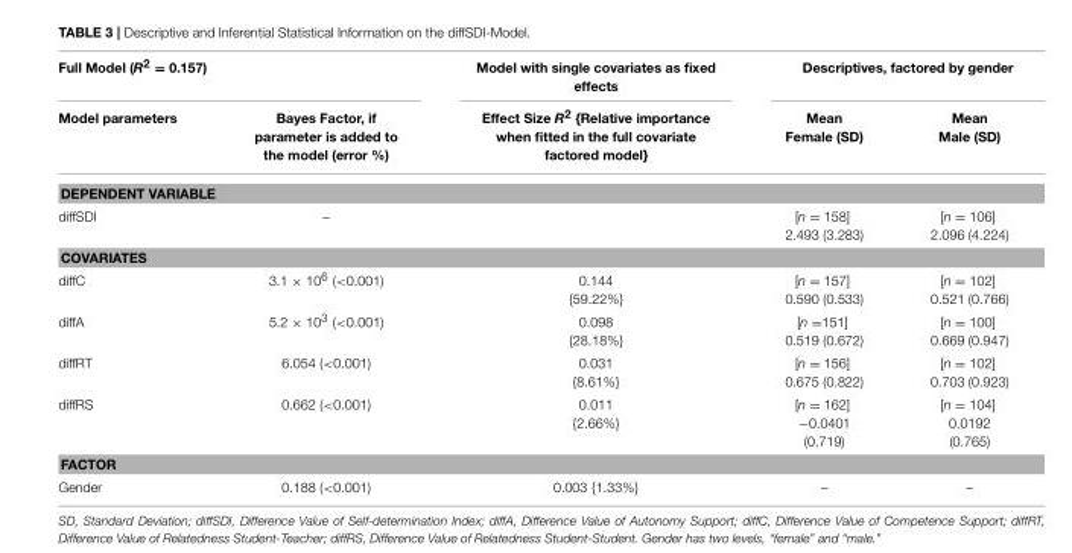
<table><thead><tr><td colspan="2">Full Model (R<sup>2</sup> = 0.157)</td><td rowspan="2">Model with single covariates as fixed effects Effect Size R<sup>2</sup> {Relative importance when fitted in the full covariate factored model}</td><td colspan="2">Descriptives, factored by gender</td></tr><tr><td>Model parameters</td><td>Bayes Factor, if parameter is added to the model (error %)</td><td>Mean Female (SD)</td><td>Mean Male (SD)</td></tr></thead><tbody><tr><td colspan="5">DEPENDENT VARIABLE</td></tr><tr><td>diffSDI</td><td>–</td><td></td><td>[n = 158] 2.493 (3.283)</td><td>[n = 106] 2.096 (4.224)</td></tr><tr><td colspan="5">COVARIATES</td></tr><tr><td>diffC</td><td>3.1 × 10<sup>6</sup> (&lt;0.001)</td><td>0.144 {59.22%}</td><td>[n = 157] 0.590 (0.533)</td><td>[n = 102] 0.521 (0.766)</td></tr><tr><td>diffA</td><td>5.2 × 10<sup>3</sup> (&lt;0.001)</td><td>0.098 {28.18%}</td><td>[n =151] 0.519 (0.672)</td><td>[n = 100] 0.669 (0.947)</td></tr><tr><td>diffRT</td><td>6.054 (&lt;0.001)</td><td>0.031 {8.61%}</td><td>[n = 156] 0.675 (0.822)</td><td>[n = 102] 0.703 (0.923)</td></tr><tr><td>diffRS</td><td>0.662 (&lt;0.001)</td><td>0.011 {2.66%}</td><td>[n = 162] −0.0401 (0.719)</td><td>[n = 104] 0.0192 (0.765)</td></tr><tr><td colspan="5">FACTOR</td></tr><tr><td>Gender</td><td>0.188 (&lt;0.001)</td><td>0.003 {1.33%}</td><td>–</td><td>–</td></tr></tbody></table>